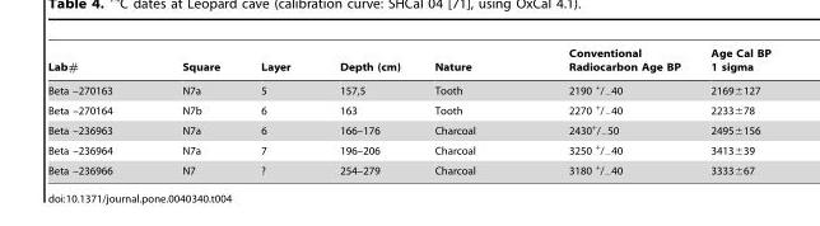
<table><thead><tr><td>Lab#</td><td>Square</td><td>Layer</td><td>Depth (cm)</td><td>Nature</td><td>Conventional Radiocarbon Age BP</td><td>Age Cal BP 1 sigma</td></tr></thead><tbody><tr><td>Beta –270163</td><td>N7a</td><td>5</td><td>157,5</td><td>Tooth</td><td>2190 <sup>+</sup>/<sub>−</sub>40</td><td>2169±127</td></tr><tr><td>Beta –270164</td><td>N7b</td><td>6</td><td>163</td><td>Tooth</td><td>2270 <sup>+</sup>/<sub>−</sub>40</td><td>2233±78</td></tr><tr><td>Beta –236963</td><td>N7a</td><td>6</td><td>166–176</td><td>Charcoal</td><td>2430<sup>+</sup>/<sub>−</sub>50</td><td>2495±156</td></tr><tr><td>Beta –236964</td><td>N7a</td><td>7</td><td>196–206</td><td>Charcoal</td><td>3250 <sup>+</sup>/<sub>−</sub>40</td><td>3413±39</td></tr><tr><td>Beta –236966</td><td>N7</td><td>?</td><td>254–279</td><td>Charcoal</td><td>3180 <sup>+</sup>/<sub>−</sub>40</td><td>3333±67</td></tr></tbody></table>